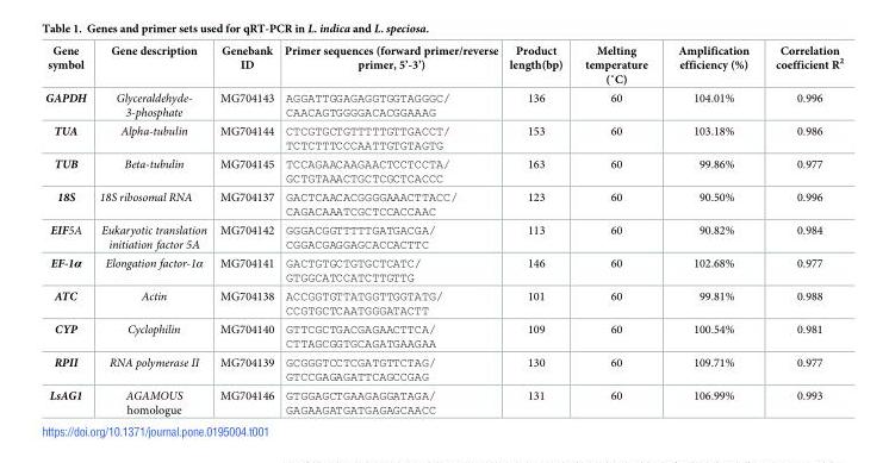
<table><thead><tr><td>Gene symbol</td><td>Gene description</td><td>Genebank ID</td><td>Primer sequences (forward primer/reverse primer, 5’-3’)</td><td>Product length(bp)</td><td>Melting temperature (˚C)</td><td>Amplification efficiency (%)</td><td>Correlation coefficient R<sup>2</sup></td></tr></thead><tbody><tr><td>GAPDH</td><td>Glyceraldehyde- 3-phosphate</td><td>MG704143</td><td>AGGATTGGAGAGGTGGTAGGGC/ CAACAGTGGGGACACGGAAAG</td><td>136</td><td>60</td><td>104.01%</td><td>0.996</td></tr><tr><td>TUA</td><td>Alpha-tubulin</td><td>MG704144</td><td>CTCGTGCTGTTTTTGTTGACCT/ TCTCTTTCCCAATTGTGTAGTG</td><td>153</td><td>60</td><td>103.18%</td><td>0.986</td></tr><tr><td>TUB</td><td>Beta-tubulin</td><td>MG704145</td><td>TCCAGAACAAGAACTCCTCCTA/ GCTGTAAACTGCTCGCTCACCC</td><td>163</td><td>60</td><td>99.86%</td><td>0.977</td></tr><tr><td>18S</td><td>18S ribosomal RNA</td><td>MG704137</td><td>GACTCAACACGGGGAAACTTACC/ CAGACAAATCGCTCCACCAAC</td><td>123</td><td>60</td><td>90.50%</td><td>0.996</td></tr><tr><td>EIF5A</td><td>Eukaryotic translation initiation factor 5A</td><td>MG704142</td><td>GGGACGGTTTTTGATGACGA/ CGGACGAGGAGCACCACTTC</td><td>113</td><td>60</td><td>90.82%</td><td>0.984</td></tr><tr><td>EF-1α</td><td>Elongation factor-1α</td><td>MG704141</td><td>GACTGTGCTGTGCTCATC/ GTGGCATCCATCTTGTTG</td><td>146</td><td>60</td><td>102.68%</td><td>0.977</td></tr><tr><td>ATC</td><td>Actin</td><td>MG704138</td><td>ACCGGTGTTATGGTTGGTATG/ CCGTGCTCAATGGGATACTT</td><td>101</td><td>60</td><td>99.81%</td><td>0.988</td></tr><tr><td>CYP</td><td>Cyclophilin</td><td>MG704140</td><td>GTTCGCTGACGAGAACTTCA/ CTTAGCGGTGCAGATGAAGAA</td><td>109</td><td>60</td><td>100.54%</td><td>0.981</td></tr><tr><td>RPII</td><td>RNA polymerase II</td><td>MG704139</td><td>GCGGGTCCTCGATGTTCTAG/ GTCCGAGAGATTCAGCCGAG</td><td>130</td><td>60</td><td>109.71%</td><td>0.977</td></tr><tr><td>LsAG1</td><td>AGAMOUS homologue</td><td>MG704146</td><td>GTGGAGCTGAAGAGGATAGA/ GAGAAGATGATGAGAGCAACC</td><td>131</td><td>60</td><td>106.99%</td><td>0.993</td></tr></tbody></table>